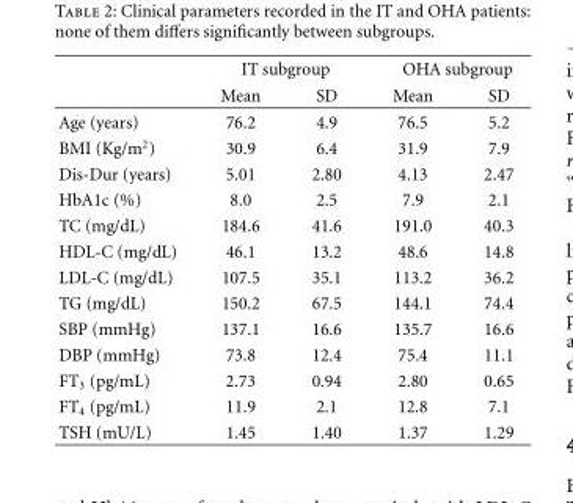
<table><thead><tr><td rowspan="2"></td><td colspan="2">IT subgroup</td><td colspan="2">OHA subgroup</td></tr><tr><td>Mean</td><td>SD</td><td>Mean</td><td>SD</td></tr></thead><tbody><tr><td>Age (years)</td><td>76.2</td><td>4.9</td><td>76.5</td><td>5.2</td></tr><tr><td>BMI (Kg/m<sup>2</sup>)</td><td>30.9</td><td>6.4</td><td>31.9</td><td>7.9</td></tr><tr><td>Dis-Dur (years)</td><td>5.01</td><td>2.80</td><td>4.13</td><td>2.47</td></tr><tr><td>HbA1c (%)</td><td>8.0</td><td>2.5</td><td>7.9</td><td>2.1</td></tr><tr><td>TC (mg/dL)</td><td>184.6</td><td>41.6</td><td>191.0</td><td>40.3</td></tr><tr><td>HDL-C (mg/dL)</td><td>46.1</td><td>13.2</td><td>48.6</td><td>14.8</td></tr><tr><td>LDL-C (mg/dL)</td><td>107.5</td><td>35.1</td><td>113.2</td><td>36.2</td></tr><tr><td>TG (mg/dL)</td><td>150.2</td><td>67.5</td><td>144.1</td><td>74.4</td></tr><tr><td>SBP (mmHg)</td><td>137.1</td><td>16.6</td><td>135.7</td><td>16.6</td></tr><tr><td>DBP (mmHg)</td><td>73.8</td><td>12.4</td><td>75.4</td><td>11.1</td></tr><tr><td>FT<sub>3</sub> (pg/mL)</td><td>2.73</td><td>0.94</td><td>2.80</td><td>0.65</td></tr><tr><td>FT<sub>4</sub> (pg/mL)</td><td>11.9</td><td>2.1</td><td>12.8</td><td>7.1</td></tr><tr><td>TSH (mU/L)</td><td>1.45</td><td>1.40</td><td>1.37</td><td>1.29</td></tr></tbody></table>